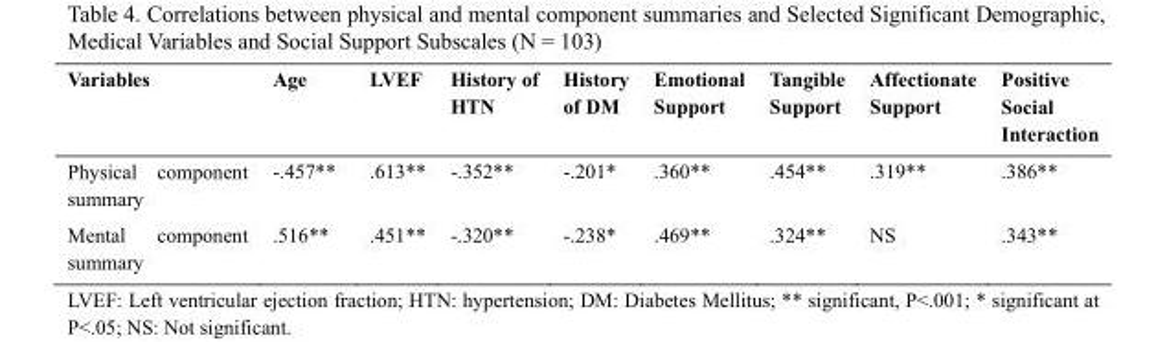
<table><thead><tr><td>Variables</td><td>Age</td><td>LVEF</td><td>History of HTN</td><td>History of DM</td><td>Emotional Support</td><td>Tangible Support</td><td>Affectionate Support</td><td>Positive Social Interaction</td></tr></thead><tbody><tr><td>Physical component summary</td><td>-.457**</td><td>.613**</td><td>-.352**</td><td>-.201*</td><td>.360**</td><td>.454**</td><td>.319**</td><td>.386**</td></tr><tr><td>Mental component summary</td><td>.516**</td><td>.451**</td><td>-.320**</td><td>-.238*</td><td>.469**</td><td>.324**</td><td>NS</td><td>.343**</td></tr></tbody></table>